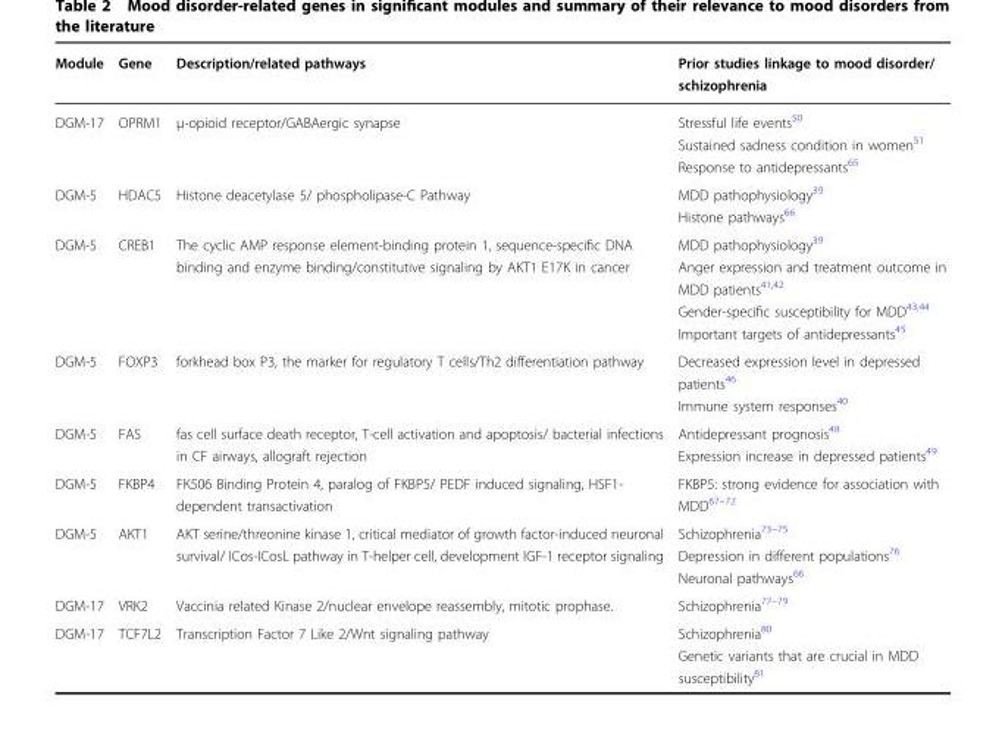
<table><thead><tr><td>Module</td><td>Gene</td><td>Description/related pathways</td><td>Prior studies linkage to mood disorder/ schizophrenia</td></tr></thead><tbody><tr><td>DGM-17</td><td>OPRM1</td><td>μ-opioid receptor/GABAergic synapse</td><td>Stressful life events<sup>50</sup> Sustained sadness condition in women<sup>51</sup> Response to antidepressants<sup>65</sup></td></tr><tr><td>DGM-5</td><td>HDAC5</td><td>Histone deacetylase 5/ phospholipase-C Pathway</td><td>MDD pathophysiology<sup>39</sup> Histone pathways<sup>66</sup></td></tr><tr><td>DGM-5</td><td>CREB1</td><td>The cyclic AMP response element-binding protein 1, sequence-specific DNA binding and enzyme binding/constitutive signaling by AKT1 E17K in cancer</td><td>MDD pathophysiology<sup>39</sup> Anger expression and treatment outcome in MDD patients<sup>41,42</sup> Gender-specific susceptibility for MDD<sup>43,44</sup> Important targets of antidepressants<sup>45</sup></td></tr><tr><td>DGM-5</td><td>FOXP3</td><td>forkhead box P3, the marker for regulatory T cells/Th2 differentiation pathway</td><td>Decreased expression level in depressed patients<sup>46</sup> Immune system responses<sup>40</sup></td></tr><tr><td>DGM-5</td><td>FAS</td><td>fas cell surface death receptor, T-cell activation and apoptosis/ bacterial infections in CF airways, allograft rejection</td><td>Antidepressant prognosis<sup>48</sup> Expression increase in depressed patients<sup>49</sup></td></tr><tr><td>DGM-5</td><td>FKBP4</td><td>FK506 Binding Protein 4, paralog of FKBP5/ PEDF induced signaling, HSF1- dependent transactivation</td><td>FKBP5: strong evidence for association with MDD<sup>67–72</sup></td></tr><tr><td>DGM-5</td><td>AKT1</td><td>AKT serine/threonine kinase 1, critical mediator of growth factor-induced neuronal survival/ ICos-ICosL pathway in T-helper cell, development IGF-1 receptor signaling</td><td>Schizophrenia<sup>73–75</sup> Depression in different populations<sup>76</sup> Neuronal pathways<sup>66</sup></td></tr><tr><td>DGM-17</td><td>VRK2</td><td>Vaccinia related Kinase 2/nuclear envelope reassembly, mitotic prophase.</td><td>Schizophrenia<sup>77–79</sup></td></tr><tr><td>DGM-17</td><td>TCF7L2</td><td>Transcription Factor 7 Like 2/Wnt signaling pathway</td><td>Schizophrenia<sup>80</sup> Genetic variants that are crucial in MDD susceptibility<sup>81</sup></td></tr></tbody></table>